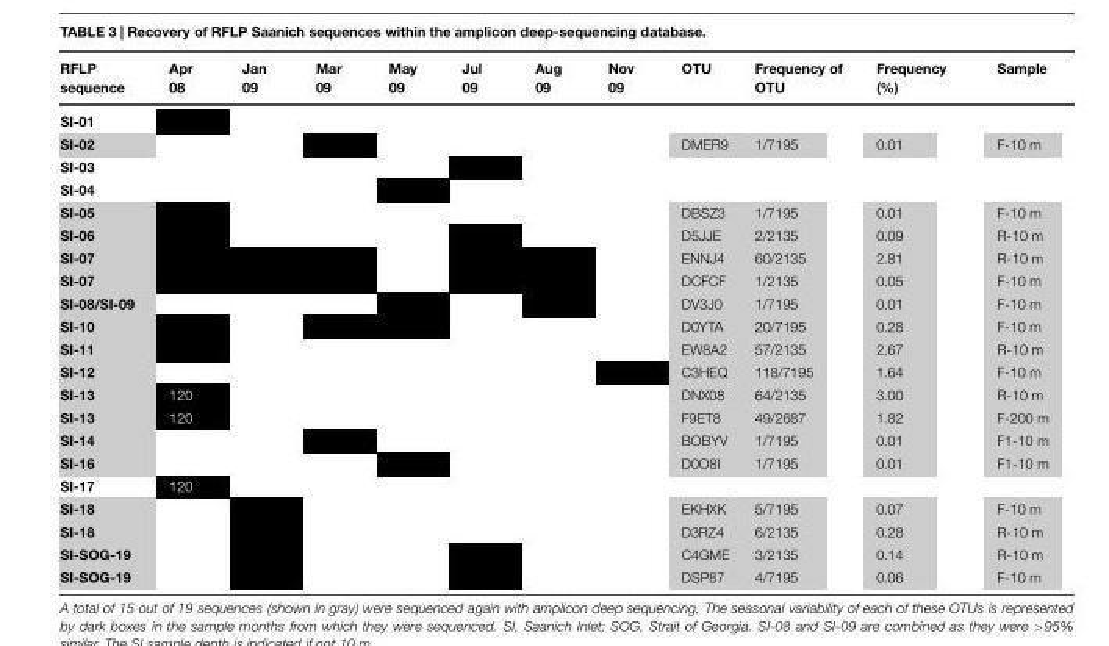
<table><thead><tr><td>RFLP sequence</td><td>Apr 08</td><td>Jan 09</td><td>Mar 09</td><td>May 09</td><td>Jul 09</td><td>Aug 09</td><td>Nov 09</td><td>OTU</td><td>Frequency of OTU</td><td>Frequency (%)</td><td>Sample</td></tr></thead><tbody><tr><td colspan="12">SI-01</td></tr><tr><td>SI-02</td><td></td><td></td><td></td><td></td><td></td><td></td><td></td><td>DMER9</td><td>1/7195</td><td>0.01</td><td>F-10 m</td></tr><tr><td colspan="12">SI-03</td></tr><tr><td colspan="12">SI-04</td></tr><tr><td>SI-05</td><td></td><td></td><td></td><td></td><td></td><td></td><td></td><td>DBSZ3</td><td>1/7195</td><td>0.01</td><td>F-10 m</td></tr><tr><td>SI-06</td><td></td><td></td><td></td><td></td><td></td><td></td><td></td><td>D5JJE</td><td>2/2135</td><td>0.09</td><td>R-10 m</td></tr><tr><td>SI-07</td><td></td><td></td><td></td><td></td><td></td><td></td><td></td><td>ENNJ4</td><td>60/2135</td><td>2.81</td><td>R-10 m</td></tr><tr><td>SI-07</td><td></td><td></td><td></td><td></td><td></td><td></td><td></td><td>DCFCF</td><td>1/2135</td><td>0.05</td><td>F-10 m</td></tr><tr><td>SI-08/SI-09</td><td></td><td></td><td></td><td></td><td></td><td></td><td></td><td>DV3J0</td><td>1/7195</td><td>0.01</td><td>F-10 m</td></tr><tr><td>SI-10</td><td></td><td></td><td></td><td></td><td></td><td></td><td></td><td>D0YTA</td><td>20/7195</td><td>0.28</td><td>F-10 m</td></tr><tr><td>SI-11</td><td></td><td></td><td></td><td></td><td></td><td></td><td></td><td>EW8A2</td><td>57/2135</td><td>2.67</td><td>R-10 m</td></tr><tr><td>SI-12</td><td></td><td></td><td></td><td></td><td></td><td></td><td></td><td>C3HEQ</td><td>118/7195</td><td>1.64</td><td>F-10 m</td></tr><tr><td>SI-13</td><td>120</td><td></td><td></td><td></td><td></td><td></td><td></td><td>DNX08</td><td>64/2135</td><td>3.00</td><td>R-10 m</td></tr><tr><td>SI-13</td><td>120</td><td></td><td></td><td></td><td></td><td></td><td></td><td>F9ET8</td><td>49/2687</td><td>1.82</td><td>F-200 m</td></tr><tr><td>SI-14</td><td></td><td></td><td></td><td></td><td></td><td></td><td></td><td>BOBYV</td><td>1/7195</td><td>0.01</td><td>F1-10 m</td></tr><tr><td>SI-16</td><td></td><td></td><td></td><td></td><td></td><td></td><td></td><td>D0O8I</td><td>1/7195</td><td>0.01</td><td>F1-10 m</td></tr><tr><td>SI-17</td><td>120</td><td></td><td></td><td></td><td></td><td></td><td></td><td></td><td></td><td></td><td></td></tr><tr><td>SI-18</td><td></td><td></td><td></td><td></td><td></td><td></td><td></td><td>EKHXK</td><td>5/7195</td><td>0.07</td><td>F-10 m</td></tr><tr><td>SI-18</td><td></td><td></td><td></td><td></td><td></td><td></td><td></td><td>D3RZ4</td><td>6/2135</td><td>0.28</td><td>R-10 m</td></tr><tr><td>SI-SOG-19</td><td></td><td></td><td></td><td></td><td></td><td></td><td></td><td>C4GME</td><td>3/2135</td><td>0.14</td><td>R-10 m</td></tr><tr><td>SI-SOG-19</td><td></td><td></td><td></td><td></td><td></td><td></td><td></td><td>DSP87</td><td>4/7195</td><td>0.06</td><td>F-10 m</td></tr></tbody></table>